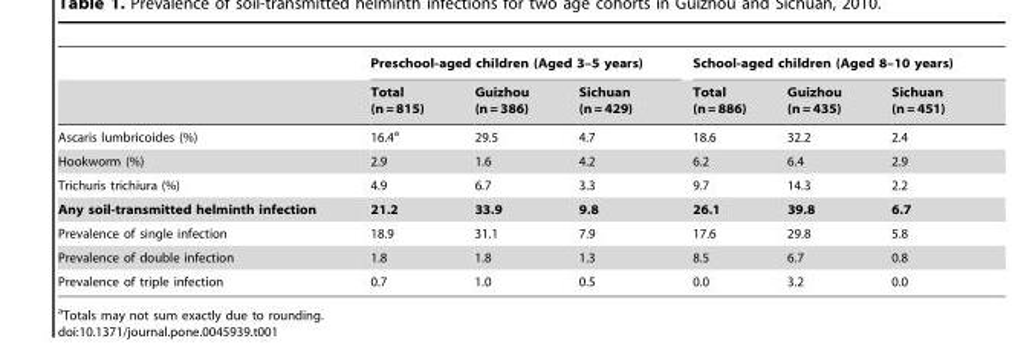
<table><thead><tr><td rowspan="2"></td><td colspan="3">Preschool-aged children (Aged 3–5 years)</td><td colspan="3">School-aged children (Aged 8–10 years)</td></tr><tr><td>Total (n = 815)</td><td>Guizhou (n = 386)</td><td>Sichuan (n = 429)</td><td>Total (n = 886)</td><td>Guizhou (n = 435)</td><td>Sichuan (n = 451)</td></tr></thead><tbody><tr><td>Ascaris lumbricoides (%)</td><td>16.4<sup>a</sup></td><td>29.5</td><td>4.7</td><td>18.6</td><td>32.2</td><td>2.4</td></tr><tr><td>Hookworm (%)</td><td>2.9</td><td>1.6</td><td>4.2</td><td>6.2</td><td>6.4</td><td>2.9</td></tr><tr><td>Trichuris trichiura (%)</td><td>4.9</td><td>6.7</td><td>3.3</td><td>9.7</td><td>14.3</td><td>2.2</td></tr><tr><td>Any soil-transmitted helminth infection</td><td>21.2</td><td>33.9</td><td>9.8</td><td>26.1</td><td>39.8</td><td>6.7</td></tr><tr><td>Prevalence of single infection</td><td>18.9</td><td>31.1</td><td>7.9</td><td>17.6</td><td>29.8</td><td>5.8</td></tr><tr><td>Prevalence of double infection</td><td>1.8</td><td>1.8</td><td>1.3</td><td>8.5</td><td>6.7</td><td>0.8</td></tr><tr><td>Prevalence of triple infection</td><td>0.7</td><td>1.0</td><td>0.5</td><td>0.0</td><td>3.2</td><td>0.0</td></tr></tbody></table>